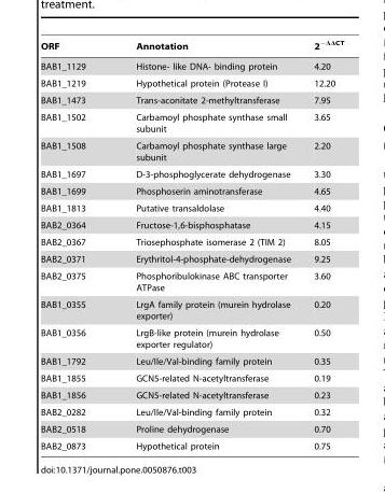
<table><thead><tr><td>ORF</td><td>Annotation</td><td>2<sup>−ΔΔCT</sup></td></tr></thead><tbody><tr><td>BAB1_1129</td><td>Histone- like DNA- binding protein</td><td>4.20</td></tr><tr><td>BAB1_1219</td><td>Hypothetical protein (Protease I)</td><td>12.20</td></tr><tr><td>BAB1_1473</td><td>Trans-aconitate 2-methyltransferase</td><td>7.95</td></tr><tr><td>BAB1_1502</td><td>Carbamoyl phosphate synthase small subunit</td><td>3.65</td></tr><tr><td>BAB1_1508</td><td>Carbamoyl phosphate synthase large subunit</td><td>2.20</td></tr><tr><td>BAB1_1697</td><td>D-3-phosphoglycerate dehydrogenase</td><td>3.30</td></tr><tr><td>BAB1_1699</td><td>Phosphoserin aminotransferase</td><td>4.65</td></tr><tr><td>BAB1_1813</td><td>Putative transaldolase</td><td>4.40</td></tr><tr><td>BAB2_0364</td><td>Fructose-1,6-bisphosphatase</td><td>4.15</td></tr><tr><td>BAB2_0367</td><td>Triosephosphate isomerase 2 (TIM 2)</td><td>8.05</td></tr><tr><td>BAB2_0371</td><td>Erythritol-4-phosphate-dehydrogenase</td><td>9.25</td></tr><tr><td>BAB2_0375</td><td>Phosphoribulokinase ABC transporter ATPase</td><td>3.60</td></tr><tr><td>BAB1_0355</td><td>LrgA family protein (murein hydrolase exporter)</td><td>0.20</td></tr><tr><td>BAB1_0356</td><td>LrgB-like protein (murein hydrolase exporter regulator)</td><td>0.50</td></tr><tr><td>BAB1_1792</td><td>Leu/Ile/Val-binding family protein</td><td>0.35</td></tr><tr><td>BAB1_1855</td><td>GCN5-related N-acetyltransferase</td><td>0.19</td></tr><tr><td>BAB1_1856</td><td>GCN5-related N-acetyltransferase</td><td>0.23</td></tr><tr><td>BAB2_0282</td><td>Leu/Ile/Val-binding family protein</td><td>0.32</td></tr><tr><td>BAB2_0518</td><td>Proline dehydrogenase</td><td>0.70</td></tr><tr><td>BAB2_0873</td><td>Hypothetical protein</td><td>0.75</td></tr></tbody></table>